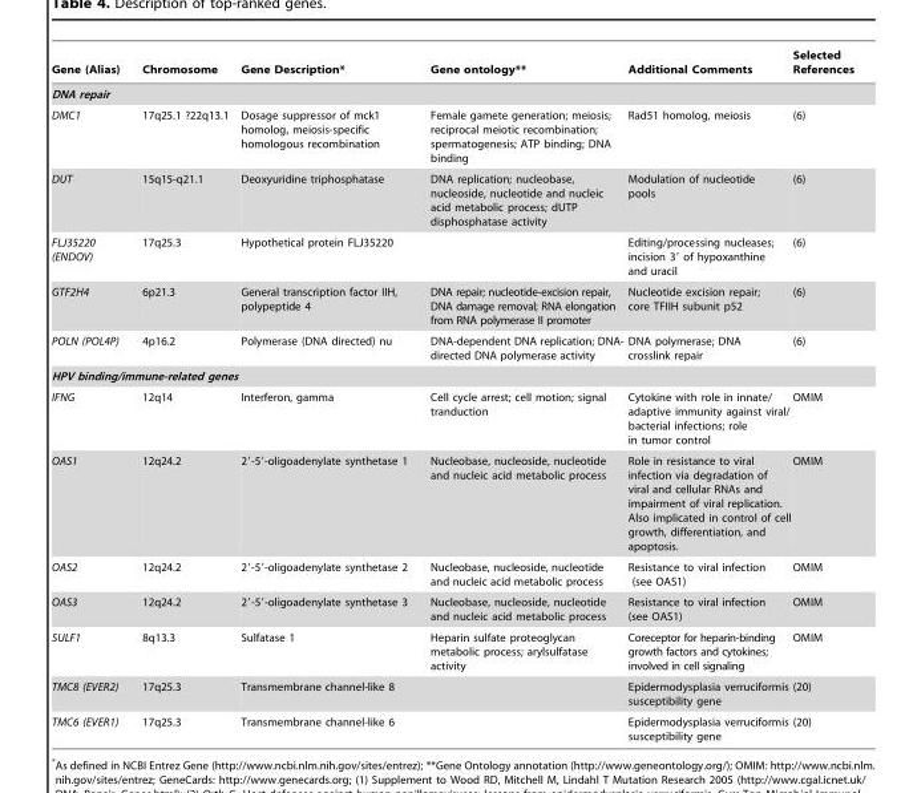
<table><thead><tr><td>Gene (Alias)</td><td>Chromosome</td><td>Gene Description*</td><td>Gene ontology**</td><td>Additional Comments</td><td>Selected References</td></tr></thead><tbody><tr><td colspan="6">DNA repair</td></tr><tr><td>DMC1</td><td>17q25.1 ?22q13.1</td><td>Dosage suppressor of mck1 homolog, meiosis-specific homologous recombination</td><td>Female gamete generation; meiosis; reciprocal meiotic recombination; spermatogenesis; ATP binding; DNA binding</td><td>Rad51 homolog, meiosis</td><td>(6)</td></tr><tr><td>DUT</td><td>15q15-q21.1</td><td>Deoxyuridine triphosphatase</td><td>DNA replication; nucleobase, nucleoside, nucleotide and nucleic acid metabolic process; dUTP disphosphatase activity</td><td>Modulation of nucleotide pools</td><td>(6)</td></tr><tr><td>FLJ35220 (ENDOV)</td><td>17q25.3</td><td>Hypothetical protein FLJ35220</td><td></td><td>Editing/processing nucleases; incision 3′ of hypoxanthine and uracil</td><td>(6)</td></tr><tr><td>GTF2H4</td><td>6p21.3</td><td>General transcription factor IIH, polypeptide 4</td><td>DNA repair; nucleotide-excision repair, DNA damage removal; RNA elongation from RNA polymerase II promoter</td><td>Nucleotide excision repair; core TFIIH subunit p52</td><td>(6)</td></tr><tr><td>POLN (POL4P)</td><td>4p16.2</td><td>Polymerase (DNA directed) nu</td><td>DNA-dependent DNA replication; DNA- directed DNA polymerase activity</td><td>DNA polymerase; DNA crosslink repair</td><td>(6)</td></tr><tr><td colspan="6">HPV binding/immune-related genes</td></tr><tr><td>IFNG</td><td>12q14</td><td>Interferon, gamma</td><td>Cell cycle arrest; cell motion; signal tranduction</td><td>Cytokine with role in innate/ adaptive immunity against viral/ bacterial infections; role in tumor control</td><td>OMIM</td></tr><tr><td>OAS1</td><td>12q24.2</td><td>2′-5′-oligoadenylate synthetase 1</td><td>Nucleobase, nucleoside, nucleotide and nucleic acid metabolic process</td><td>Role in resistance to viral infection via degradation of viral and cellular RNAs and impairment of viral replication. Also implicated in control of cell growth, differentiation, and apoptosis.</td><td>OMIM</td></tr><tr><td>OAS2</td><td>12q24.2</td><td>2′-5′-oligoadenylate synthetase 2</td><td>Nucleobase, nucleoside, nucleotide and nucleic acid metabolic process</td><td>Resistance to viral infection (see OAS1)</td><td>OMIM</td></tr><tr><td>OAS3</td><td>12q24.2</td><td>2′-5′-oligoadenylate synthetase 3</td><td>Nucleobase, nucleoside, nucleotide and nucleic acid metabolic process</td><td>Resistance to viral infection (see OAS1)</td><td>OMIM</td></tr><tr><td>SULF1</td><td>8q13.3</td><td>Sulfatase 1</td><td>Heparin sulfate proteoglycan metabolic process; arylsulfatase activity</td><td>Coreceptor for heparin-binding growth factors and cytokines; involved in cell signaling</td><td>OMIM</td></tr><tr><td>TMC8 (EVER2)</td><td>17q25.3</td><td>Transmembrane channel-like 8</td><td></td><td>Epidermodysplasia verruciformis susceptibility gene</td><td>(20)</td></tr><tr><td>TMC6 (EVER1)</td><td>17q25.3</td><td>Transmembrane channel-like 6</td><td></td><td>Epidermodysplasia verruciformis susceptibility gene</td><td>(20)</td></tr></tbody></table>